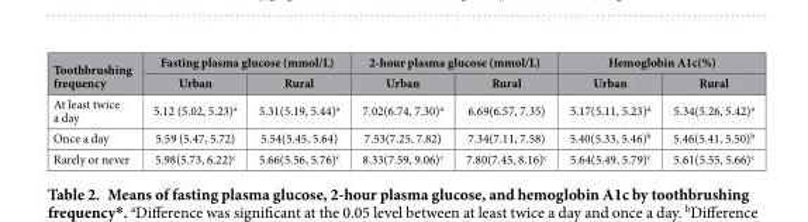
<table><thead><tr><td rowspan="2">Toothbrushing frequency</td><td colspan="2">Fasting plasma glucose (mmol/L)</td><td colspan="2">2-hour plasma glucose (mmol/L)</td><td colspan="2">Hemoglobin A1c(%)</td></tr><tr><td>Urban</td><td>Rural</td><td>Urban</td><td>Rural</td><td>Urban</td><td>Rural</td></tr></thead><tbody><tr><td>At least twice a day</td><td>5.12 (5.02, 5.23)<sup>a</sup></td><td>5.31(5.19, 5.44)<sup>a</sup></td><td>7.02(6.74, 7.30)<sup>a</sup></td><td>6.69(6.57, 7.35)</td><td>5.17(5.11, 5.23)<sup>a</sup></td><td>5.34(5.26, 5.42)<sup>a</sup></td></tr><tr><td>Once a day</td><td>5.59 (5.47, 5.72)</td><td>5.54(5.45, 5.64)</td><td>7.53(7.25, 7.82)</td><td>7.34(7.11, 7.58)</td><td>5.40(5.33, 5.46)<sup>b</sup></td><td>5.46(5.41, 5.50)<sup>b</sup></td></tr><tr><td>Rarely or never</td><td>5.98(5.73, 6.22)<sup>c</sup></td><td>5.66(5.56, 5.76)<sup>c</sup></td><td>8.33(7.59, 9.06)<sup>c</sup></td><td>7.80(7.45, 8.16)<sup>c</sup></td><td>5.64(5.49, 5.79)<sup>c</sup></td><td>5.61(5.55, 5.66)<sup>c</sup></td></tr></tbody></table>